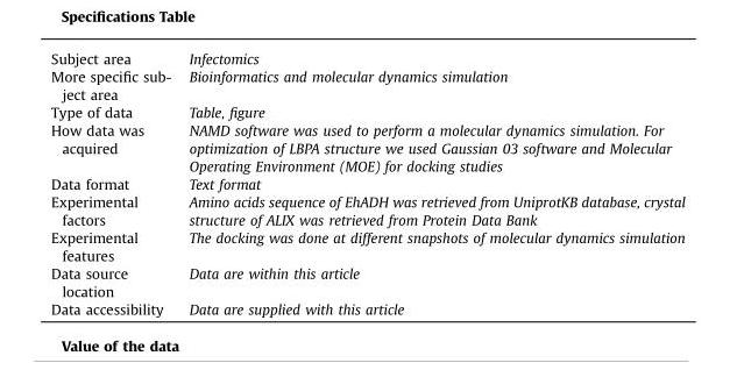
<table><tbody><tr><td>Subject area</td><td>Infectomics</td></tr><tr><td>More specific sub- ject area</td><td>Bioinformatics and molecular dynamics simulation</td></tr><tr><td>Type of data</td><td>Table, figure</td></tr><tr><td>How data was acquired</td><td>NAMD software was used to perform a molecular dynamics simulation. For optimization of LBPA structure we used Gaussian 03 software and Molecular Operating Environment (MOE) for docking studies</td></tr><tr><td>Data format</td><td>Text format</td></tr><tr><td>Experimental factors</td><td>Amino acids sequence of EhADH was retrieved from UniprotKB database, crystal structure of ALIX was retrieved from Protein Data Bank</td></tr><tr><td>Experimental features</td><td>The docking was done at different snapshots of molecular dynamics simulation</td></tr><tr><td>Data source location</td><td>Data are within this article</td></tr><tr><td>Data accessibility</td><td>Data are supplied with this article</td></tr></tbody></table>